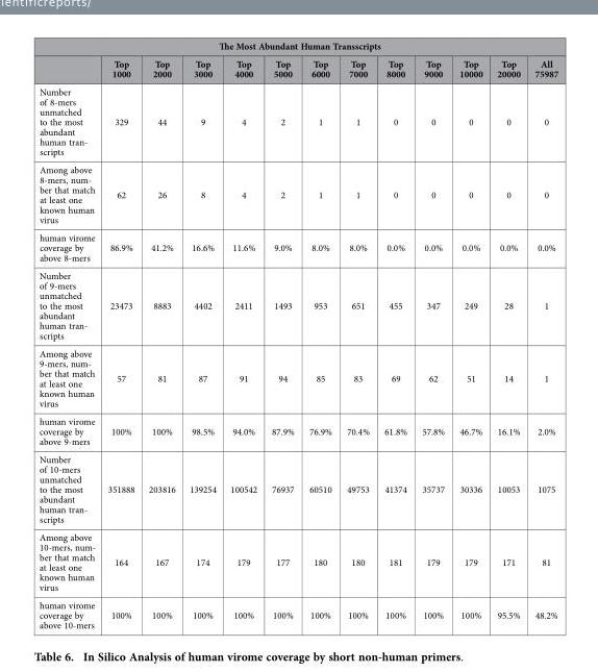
<table><thead><tr><td colspan="13">The Most Abundant Human Transscripts</td></tr><tr><td></td><td>Top 1000</td><td>Top 2000</td><td>Top 3000</td><td>Top 4000</td><td>Top 5000</td><td>Top 6000</td><td>Top 7000</td><td>Top 8000</td><td>Top 9000</td><td>Top 10000</td><td>Top 20000</td><td>All 75987</td></tr></thead><tbody><tr><td>Number of 8-mers unmatched to the most abundant human tran- scripts</td><td>329</td><td>44</td><td>9</td><td>4</td><td>2</td><td>1</td><td>1</td><td>0</td><td>0</td><td>0</td><td>0</td><td>0</td></tr><tr><td>Among above 8-mers, num- ber that match at least one known human virus</td><td>62</td><td>26</td><td>8</td><td>4</td><td>2</td><td>1</td><td>1</td><td>0</td><td>0</td><td>0</td><td>0</td><td>0</td></tr><tr><td>human virome coverage by above 8-mers</td><td>86.9%</td><td>41.2%</td><td>16.6%</td><td>11.6%</td><td>9.0%</td><td>8.0%</td><td>8.0%</td><td>0.0%</td><td>0.0%</td><td>0.0%</td><td>0.0%</td><td>0.0%</td></tr><tr><td>Number of 9-mers unmatched to the most abundant human tran- scripts</td><td>23473</td><td>8883</td><td>4402</td><td>2411</td><td>1493</td><td>953</td><td>651</td><td>455</td><td>347</td><td>249</td><td>28</td><td>1</td></tr><tr><td>Among above 9-mers, num- ber that match at least one known human virus</td><td>57</td><td>81</td><td>87</td><td>91</td><td>94</td><td>85</td><td>83</td><td>69</td><td>62</td><td>51</td><td>14</td><td>1</td></tr><tr><td>human virome coverage by above 9-mers</td><td>100%</td><td>100%</td><td>98.5%</td><td>94.0%</td><td>87.9%</td><td>76.9%</td><td>70.4%</td><td>61.8%</td><td>57.8%</td><td>46.7%</td><td>16.1%</td><td>2.0%</td></tr><tr><td>Number of 10-mers unmatched to the most abundant human tran- scripts</td><td>351888</td><td>203816</td><td>139254</td><td>100542</td><td>76937</td><td>60510</td><td>49753</td><td>41374</td><td>35737</td><td>30336</td><td>10053</td><td>1075</td></tr><tr><td>Among above 10-mers, num- ber that match at least one known human virus</td><td>164</td><td>167</td><td>174</td><td>179</td><td>177</td><td>180</td><td>180</td><td>181</td><td>179</td><td>179</td><td>171</td><td>81</td></tr><tr><td>human virome coverage by above 10-mers</td><td>100%</td><td>100%</td><td>100%</td><td>100%</td><td>100%</td><td>100%</td><td>100%</td><td>100%</td><td>100%</td><td>100%</td><td>95.5%</td><td>48.2%</td></tr></tbody></table>